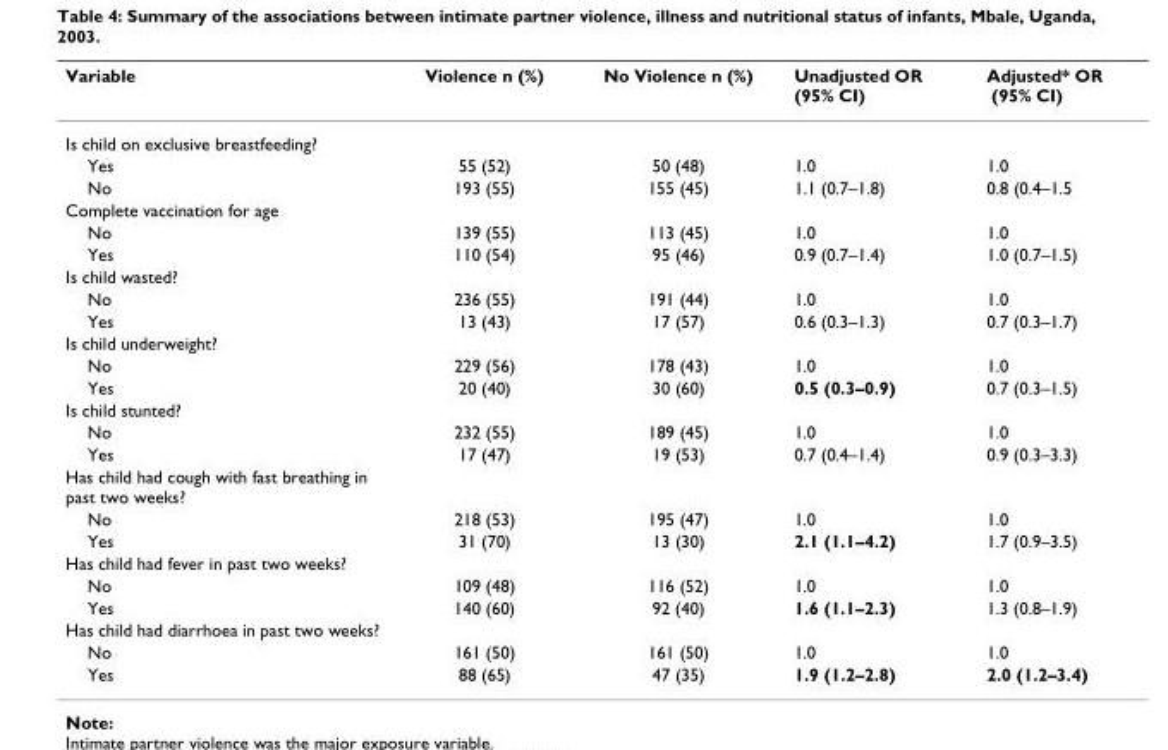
<table><thead><tr><td>Variable</td><td>Violence n (%)</td><td>No Violence n (%)</td><td>Unadjusted OR (95% CI)</td><td>Adjusted* OR (95% CI)</td></tr></thead><tbody><tr><td colspan="5">Is child on exclusive breastfeeding?</td></tr><tr><td>Yes</td><td>55 (52)</td><td>50 (48)</td><td>1.0</td><td>1.0</td></tr><tr><td>No</td><td>193 (55)</td><td>155 (45)</td><td>1.1 (0.7–1.8)</td><td>0.8 (0.4–1.5</td></tr><tr><td colspan="5">Complete vaccination for age</td></tr><tr><td>No</td><td>139 (55)</td><td>113 (45)</td><td>1.0</td><td>1.0</td></tr><tr><td>Yes</td><td>110 (54)</td><td>95 (46)</td><td>0.9 (0.7–1.4)</td><td>1.0 (0.7–1.5)</td></tr><tr><td colspan="5">Is child wasted?</td></tr><tr><td>No</td><td>236 (55)</td><td>191 (44)</td><td>1.0</td><td>1.0</td></tr><tr><td>Yes</td><td>13 (43)</td><td>17 (57)</td><td>0.6 (0.3–1.3)</td><td>0.7 (0.3–1.7)</td></tr><tr><td colspan="5">Is child underweight?</td></tr><tr><td>No</td><td>229 (56)</td><td>178 (43)</td><td>1.0</td><td>1.0</td></tr><tr><td>Yes</td><td>20 (40)</td><td>30 (60)</td><td>0.5 (0.3–0.9)</td><td>0.7 (0.3–1.5)</td></tr><tr><td colspan="5">Is child stunted?</td></tr><tr><td>No</td><td>232 (55)</td><td>189 (45)</td><td>1.0</td><td>1.0</td></tr><tr><td>Yes</td><td>17 (47)</td><td>19 (53)</td><td>0.7 (0.4–1.4)</td><td>0.9 (0.3–3.3)</td></tr><tr><td colspan="5">Has child had cough with fast breathing in past two weeks?</td></tr><tr><td>No</td><td>218 (53)</td><td>195 (47)</td><td>1.0</td><td>1.0</td></tr><tr><td>Yes</td><td>31 (70)</td><td>13 (30)</td><td>2.1 (1.1–4.2)</td><td>1.7 (0.9–3.5)</td></tr><tr><td colspan="5">Has child had fever in past two weeks?</td></tr><tr><td>No</td><td>109 (48)</td><td>116 (52)</td><td>1.0</td><td>1.0</td></tr><tr><td>Yes</td><td>140 (60)</td><td>92 (40)</td><td>1.6 (1.1–2.3)</td><td>1.3 (0.8–1.9)</td></tr><tr><td colspan="5">Has child had diarrhoea in past two weeks?</td></tr><tr><td>No</td><td>161 (50)</td><td>161 (50)</td><td>1.0</td><td>1.0</td></tr><tr><td>Yes</td><td>88 (65)</td><td>47 (35)</td><td>1.9 (1.2–2.8)</td><td>2.0 (1.2–3.4)</td></tr></tbody></table>